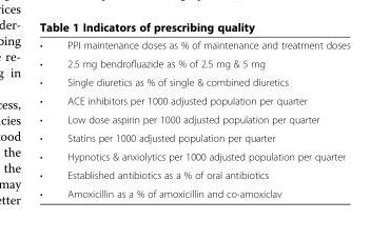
<table><tbody><tr><td>•</td><td>PPI maintenance doses as % of maintenance and treatment doses</td></tr><tr><td>•</td><td>2.5 mg bendrofluazide as % of 2.5 mg &amp; 5 mg</td></tr><tr><td>•</td><td>Single diuretics as % of single &amp; combined diuretics</td></tr><tr><td>•</td><td>ACE inhibitors per 1000 adjusted population per quarter</td></tr><tr><td>•</td><td>Low dose aspirin per 1000 adjusted population per quarter</td></tr><tr><td>•</td><td>Statins per 1000 adjusted population per quarter</td></tr><tr><td>•</td><td>Hypnotics &amp; anxiolytics per 1000 adjusted population per quarter</td></tr><tr><td>•</td><td>Established antibiotics as a % of oral antibiotics</td></tr><tr><td>•</td><td>Amoxicillin as a % of amoxicillin and co-amoxiclav</td></tr></tbody></table>